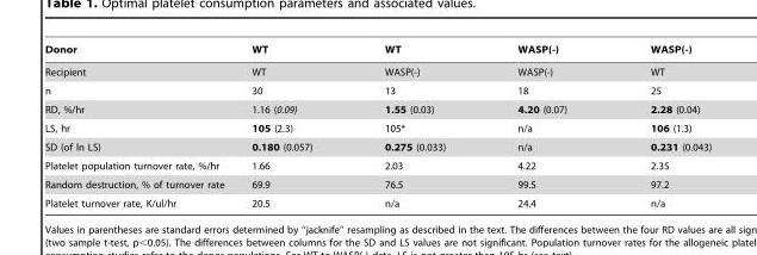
<table><thead><tr><td>Donor</td><td>WT</td><td>WT</td><td>WASP(-)</td><td>WASP(-)</td></tr></thead><tbody><tr><td>Recipient</td><td>WT</td><td>WASP(-)</td><td>WASP(-)</td><td>WT</td></tr><tr><td>n</td><td>30</td><td>13</td><td>18</td><td>25</td></tr><tr><td>RD, %/hr</td><td>1.16 (0.09)</td><td>1.55 (0.03)</td><td>4.20 (0.07)</td><td>2.28 (0.04)</td></tr><tr><td>LS, hr</td><td>105 (2.3)</td><td>105*</td><td>n/a</td><td>106 (1.3)</td></tr><tr><td>SD (of ln LS)</td><td>0.180 (0.057)</td><td>0.275 (0.033)</td><td>n/a</td><td>0.231 (0.043)</td></tr><tr><td>Platelet population turnover rate, %/hr</td><td>1.66</td><td>2.03</td><td>4.22</td><td>2.35</td></tr><tr><td>Random destruction, % of turnover rate</td><td>69.9</td><td>76.5</td><td>99.5</td><td>97.2</td></tr><tr><td>Platelet turnover rate, K/ul/hr</td><td>20.5</td><td>n/a</td><td>24.4</td><td>n/a</td></tr></tbody></table>